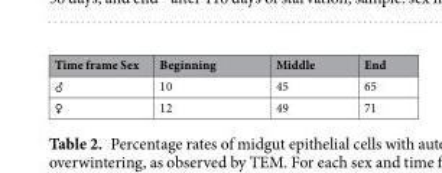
<table><thead><tr><td>Time frame Sex</td><td>Beginning</td><td>Middle</td><td>End</td></tr></thead><tbody><tr><td>♂</td><td>10</td><td>45</td><td>65</td></tr><tr><td>♀</td><td>12</td><td>49</td><td>71</td></tr></tbody></table>